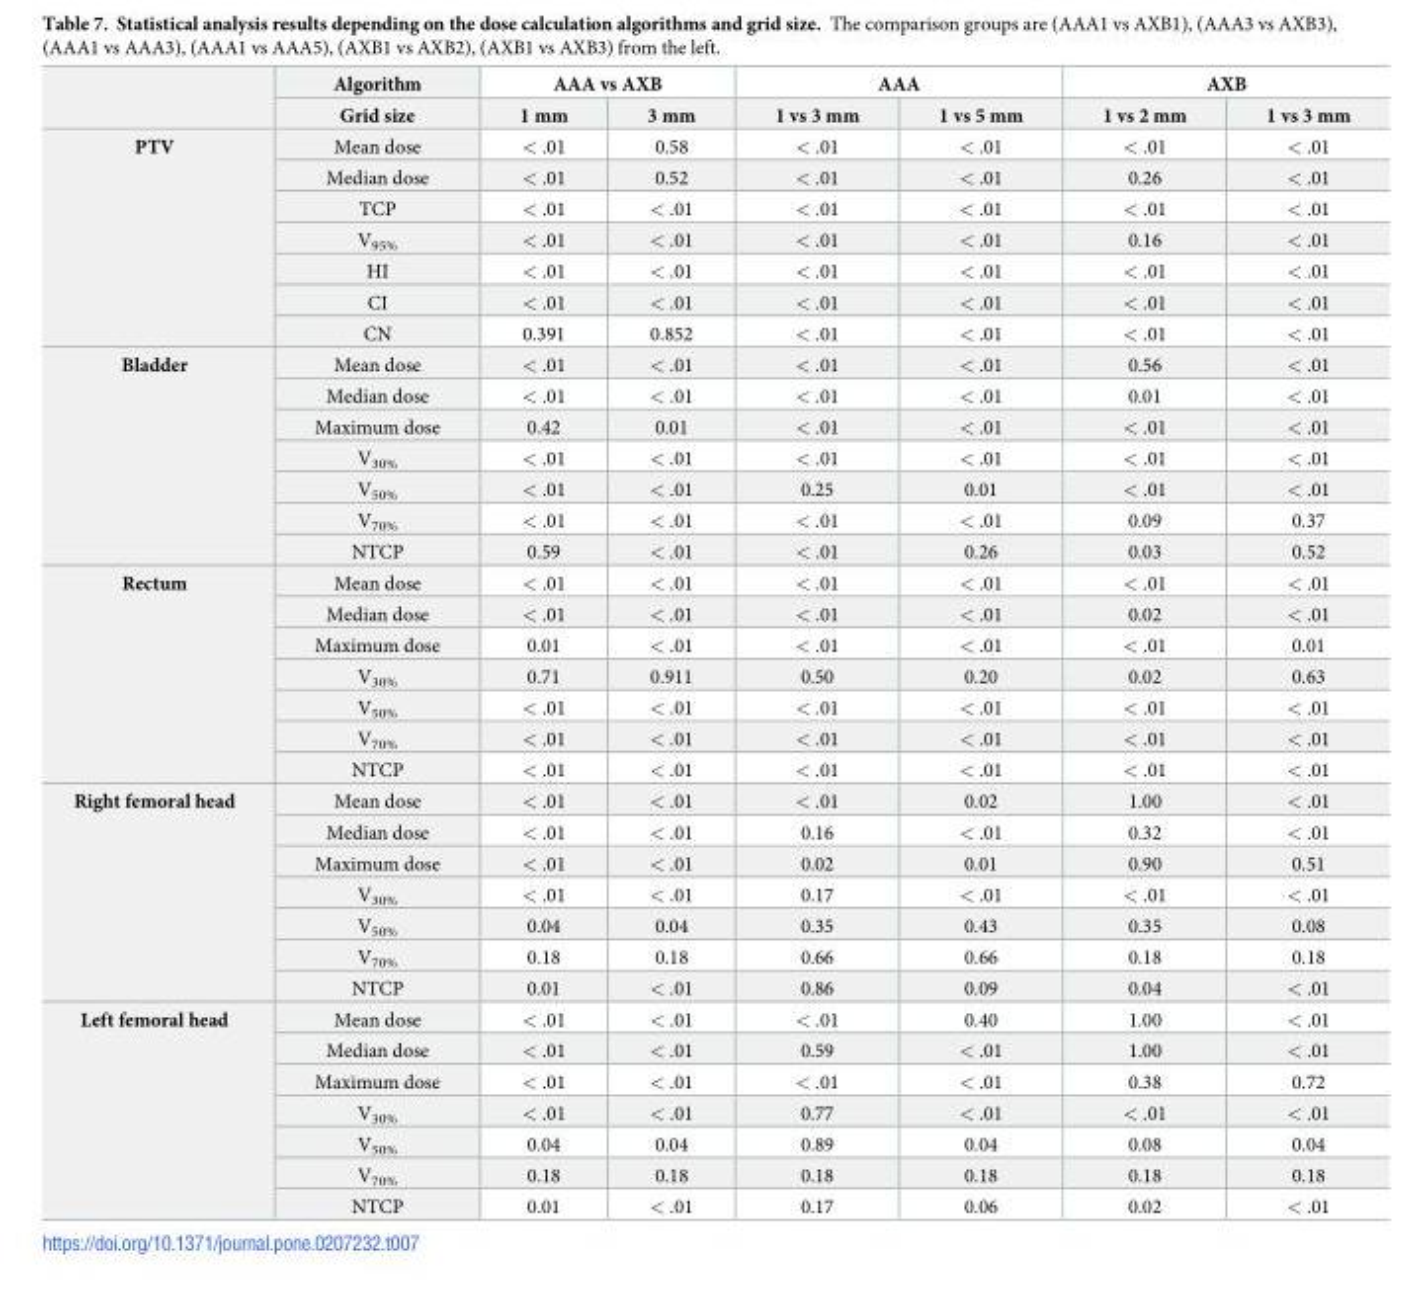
<table><thead><tr><td rowspan="2"></td><td rowspan="2">Algorithm Grid size</td><td colspan="2">AAA vs AXB</td><td colspan="2">AAA</td><td colspan="2">AXB</td></tr><tr><td>1 mm</td><td>3 mm</td><td>1 vs 3 mm</td><td>1 vs 5 mm</td><td>1 vs 2 mm</td><td>1 vs 3 mm</td></tr></thead><tbody><tr><td rowspan="7">PTV</td><td>Mean dose</td><td>&lt; .01</td><td>0.58</td><td>&lt; .01</td><td>&lt; .01</td><td>&lt; .01</td><td>&lt; .01</td></tr><tr><td>Median dose</td><td>&lt; .01</td><td>0.52</td><td>&lt; .01</td><td>&lt; .01</td><td>0.26</td><td>&lt; .01</td></tr><tr><td>TCP</td><td>&lt; .01</td><td>&lt; .01</td><td>&lt; .01</td><td>&lt; .01</td><td>&lt; .01</td><td>&lt; .01</td></tr><tr><td>V<sub>95%</sub></td><td>&lt; .01</td><td>&lt; .01</td><td>&lt; .01</td><td>&lt; .01</td><td>0.16</td><td>&lt; .01</td></tr><tr><td>HI</td><td>&lt; .01</td><td>&lt; .01</td><td>&lt; .01</td><td>&lt; .01</td><td>&lt; .01</td><td>&lt; .01</td></tr><tr><td>CI</td><td>&lt; .01</td><td>&lt; .01</td><td>&lt; .01</td><td>&lt; .01</td><td>&lt; .01</td><td>&lt; .01</td></tr><tr><td>CN</td><td>0.391</td><td>0.852</td><td>&lt; .01</td><td>&lt; .01</td><td>&lt; .01</td><td>&lt; .01</td></tr><tr><td rowspan="7">Bladder</td><td>Mean dose</td><td>&lt; .01</td><td>&lt; .01</td><td>&lt; .01</td><td>&lt; .01</td><td>0.56</td><td>&lt; .01</td></tr><tr><td>Median dose</td><td>&lt; .01</td><td>&lt; .01</td><td>&lt; .01</td><td>&lt; .01</td><td>0.01</td><td>&lt; .01</td></tr><tr><td>Maximum dose</td><td>0.42</td><td>0.01</td><td>&lt; .01</td><td>&lt; .01</td><td>&lt; .01</td><td>&lt; .01</td></tr><tr><td>V<sub>30%</sub></td><td>&lt; .01</td><td>&lt; .01</td><td>&lt; .01</td><td>&lt; .01</td><td>&lt; .01</td><td>&lt; .01</td></tr><tr><td>V<sub>50%</sub></td><td>&lt; .01</td><td>&lt; .01</td><td>0.25</td><td>0.01</td><td>&lt; .01</td><td>&lt; .01</td></tr><tr><td>V<sub>70%</sub></td><td>&lt; .01</td><td>&lt; .01</td><td>&lt; .01</td><td>&lt; .01</td><td>0.09</td><td>0.37</td></tr><tr><td>NTCP</td><td>0.59</td><td>&lt; .01</td><td>&lt; .01</td><td>0.26</td><td>0.03</td><td>0.52</td></tr><tr><td rowspan="7">Rectum</td><td>Mean dose</td><td>&lt; .01</td><td>&lt; .01</td><td>&lt; .01</td><td>&lt; .01</td><td>&lt; .01</td><td>&lt; .01</td></tr><tr><td>Median dose</td><td>&lt; .01</td><td>&lt; .01</td><td>&lt; .01</td><td>&lt; .01</td><td>0.02</td><td>&lt; .01</td></tr><tr><td>Maximum dose</td><td>0.01</td><td>&lt; .01</td><td>&lt; .01</td><td>&lt; .01</td><td>&lt; .01</td><td>0.01</td></tr><tr><td>V<sub>30%</sub></td><td>0.71</td><td>0.911</td><td>0.50</td><td>0.20</td><td>0.02</td><td>0.63</td></tr><tr><td>V<sub>50%</sub></td><td>&lt; .01</td><td>&lt; .01</td><td>&lt; .01</td><td>&lt; .01</td><td>&lt; .01</td><td>&lt; .01</td></tr><tr><td>V<sub>70%</sub></td><td>&lt; .01</td><td>&lt; .01</td><td>&lt; .01</td><td>&lt; .01</td><td>&lt; .01</td><td>&lt; .01</td></tr><tr><td>NTCP</td><td>&lt; .01</td><td>&lt; .01</td><td>&lt; .01</td><td>&lt; .01</td><td>&lt; .01</td><td>&lt; .01</td></tr><tr><td rowspan="7">Right femoral head</td><td>Mean dose</td><td>&lt; .01</td><td>&lt; .01</td><td>&lt; .01</td><td>0.02</td><td>1.00</td><td>&lt; .01</td></tr><tr><td>Median dose</td><td>&lt; .01</td><td>&lt; .01</td><td>0.16</td><td>&lt; .01</td><td>0.32</td><td>&lt; .01</td></tr><tr><td>Maximum dose</td><td>&lt; .01</td><td>&lt; .01</td><td>0.02</td><td>0.01</td><td>0.90</td><td>0.51</td></tr><tr><td>V<sub>30%</sub></td><td>&lt; .01</td><td>&lt; .01</td><td>0.17</td><td>&lt; .01</td><td>&lt; .01</td><td>&lt; .01</td></tr><tr><td>V<sub>50%</sub></td><td>0.04</td><td>0.04</td><td>0.35</td><td>0.43</td><td>0.35</td><td>0.08</td></tr><tr><td>V<sub>70%</sub></td><td>0.18</td><td>0.18</td><td>0.66</td><td>0.66</td><td>0.18</td><td>0.18</td></tr><tr><td>NTCP</td><td>0.01</td><td>&lt; .01</td><td>0.86</td><td>0.09</td><td>0.04</td><td>&lt; .01</td></tr><tr><td rowspan="7">Left femoral head</td><td>Mean dose</td><td>&lt; .01</td><td>&lt; .01</td><td>&lt; .01</td><td>0.40</td><td>1.00</td><td>&lt; .01</td></tr><tr><td>Median dose</td><td>&lt; .01</td><td>&lt; .01</td><td>0.59</td><td>&lt; .01</td><td>1.00</td><td>&lt; .01</td></tr><tr><td>Maximum dose</td><td>&lt; .01</td><td>&lt; .01</td><td>&lt; .01</td><td>&lt; .01</td><td>0.38</td><td>0.72</td></tr><tr><td>V<sub>30%</sub></td><td>&lt; .01</td><td>&lt; .01</td><td>0.77</td><td>&lt; .01</td><td>&lt; .01</td><td>&lt; .01</td></tr><tr><td>V<sub>50%</sub></td><td>0.04</td><td>0.04</td><td>0.89</td><td>0.04</td><td>0.08</td><td>0.04</td></tr><tr><td>V<sub>70%</sub></td><td>0.18</td><td>0.18</td><td>0.18</td><td>0.18</td><td>0.18</td><td>0.18</td></tr><tr><td>NTCP</td><td>0.01</td><td>&lt; .01</td><td>0.17</td><td>0.06</td><td>0.02</td><td>&lt; .01</td></tr></tbody></table>